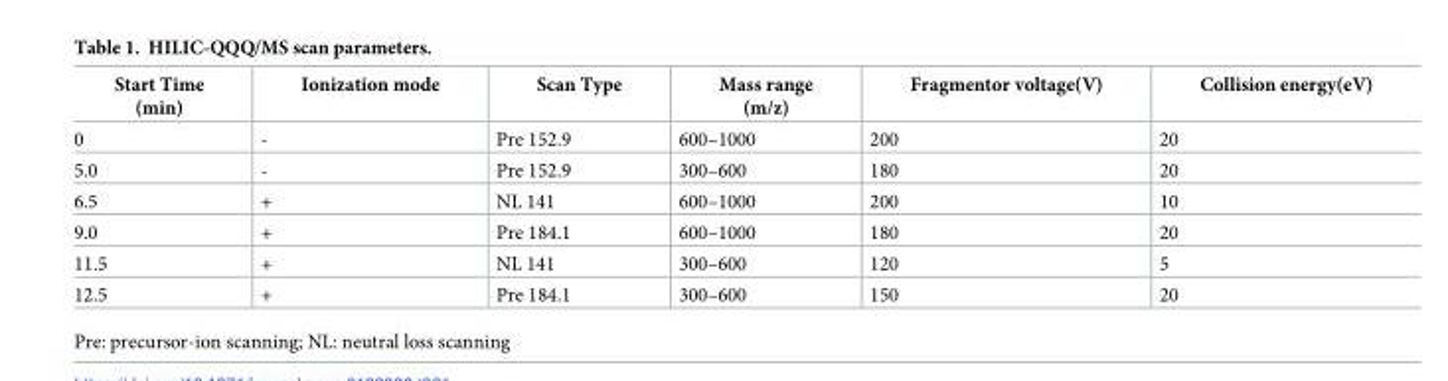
<table><thead><tr><td>Start Time (min)</td><td>Ionization mode</td><td>Scan Type</td><td>Mass range (m/z)</td><td>Fragmentor voltage(V)</td><td>Collision energy(eV)</td></tr></thead><tbody><tr><td>0</td><td>-</td><td>Pre 152.9</td><td>600–1000</td><td>200</td><td>20</td></tr><tr><td>5.0</td><td>-</td><td>Pre 152.9</td><td>300–600</td><td>180</td><td>20</td></tr><tr><td>6.5</td><td>+</td><td>NL 141</td><td>600–1000</td><td>200</td><td>10</td></tr><tr><td>9.0</td><td>+</td><td>Pre 184.1</td><td>600–1000</td><td>180</td><td>20</td></tr><tr><td>11.5</td><td>+</td><td>NL 141</td><td>300–600</td><td>120</td><td>5</td></tr><tr><td>12.5</td><td>+</td><td>Pre 184.1</td><td>300–600</td><td>150</td><td>20</td></tr></tbody></table>